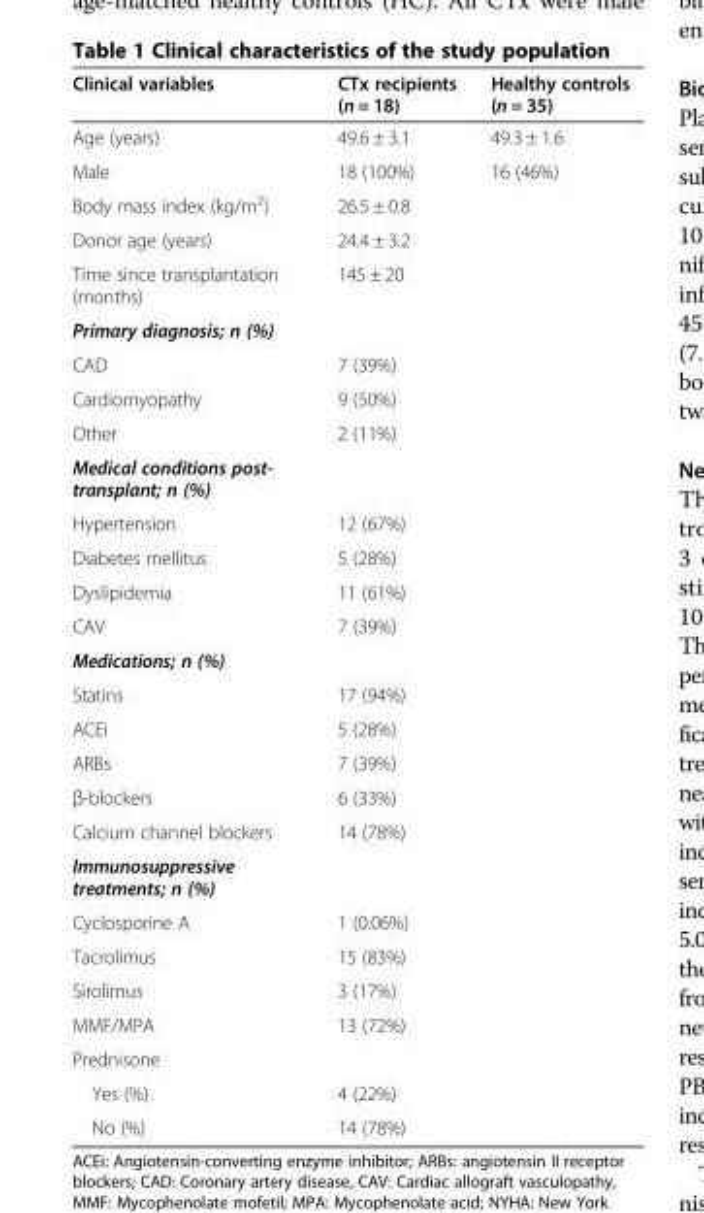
<table><thead><tr><td>Clinical variables</td><td>CTx recipients (n = 18)</td><td>Healthy controls (n = 35)</td></tr></thead><tbody><tr><td>Age (years)</td><td>49.6 ± 3.1</td><td>49.3 ± 1.6</td></tr><tr><td>Male</td><td>18 (100%)</td><td>16 (46%)</td></tr><tr><td>Body mass index (kg/m<sup>2</sup>)</td><td>26.5 ± 0.8</td><td></td></tr><tr><td>Donor age (years)</td><td>24.4 ± 3.2</td><td></td></tr><tr><td>Time since transplantation (months)</td><td>145 ± 20</td><td></td></tr><tr><td colspan="3">Primary diagnosis; n (%)</td></tr><tr><td>CAD</td><td>7 (39%)</td><td></td></tr><tr><td>Cardiomyopathy</td><td>9 (50%)</td><td></td></tr><tr><td>Other</td><td>2 (11%)</td><td></td></tr><tr><td colspan="3">Medical conditions post- transplant; n (%)</td></tr><tr><td>Hypertension</td><td>12 (67%)</td><td></td></tr><tr><td>Diabetes mellitus</td><td>5 (28%)</td><td></td></tr><tr><td>Dyslipidemia</td><td>11 (61%)</td><td></td></tr><tr><td>CAV</td><td>7 (39%)</td><td></td></tr><tr><td colspan="3">Medications; n (%)</td></tr><tr><td>Statins</td><td>17 (94%)</td><td></td></tr><tr><td>ACEi</td><td>5 (28%)</td><td></td></tr><tr><td>ARBs</td><td>7 (39%)</td><td></td></tr><tr><td>β-blockers</td><td>6 (33%)</td><td></td></tr><tr><td>Calcium channel blockers</td><td>14 (78%)</td><td></td></tr><tr><td colspan="3">Immunosuppressive treatments; n (%)</td></tr><tr><td>Cyclosporine A</td><td>1 (0.06%)</td><td></td></tr><tr><td>Tacrolimus</td><td>15 (83%)</td><td></td></tr><tr><td>Sirolimus</td><td>3 (17%)</td><td></td></tr><tr><td>MMF/MPA</td><td>13 (72%)</td><td></td></tr><tr><td colspan="3">Prednisone</td></tr><tr><td>Yes (%)</td><td>4 (22%)</td><td></td></tr><tr><td>No (%)</td><td>14 (78%)</td><td></td></tr></tbody></table>